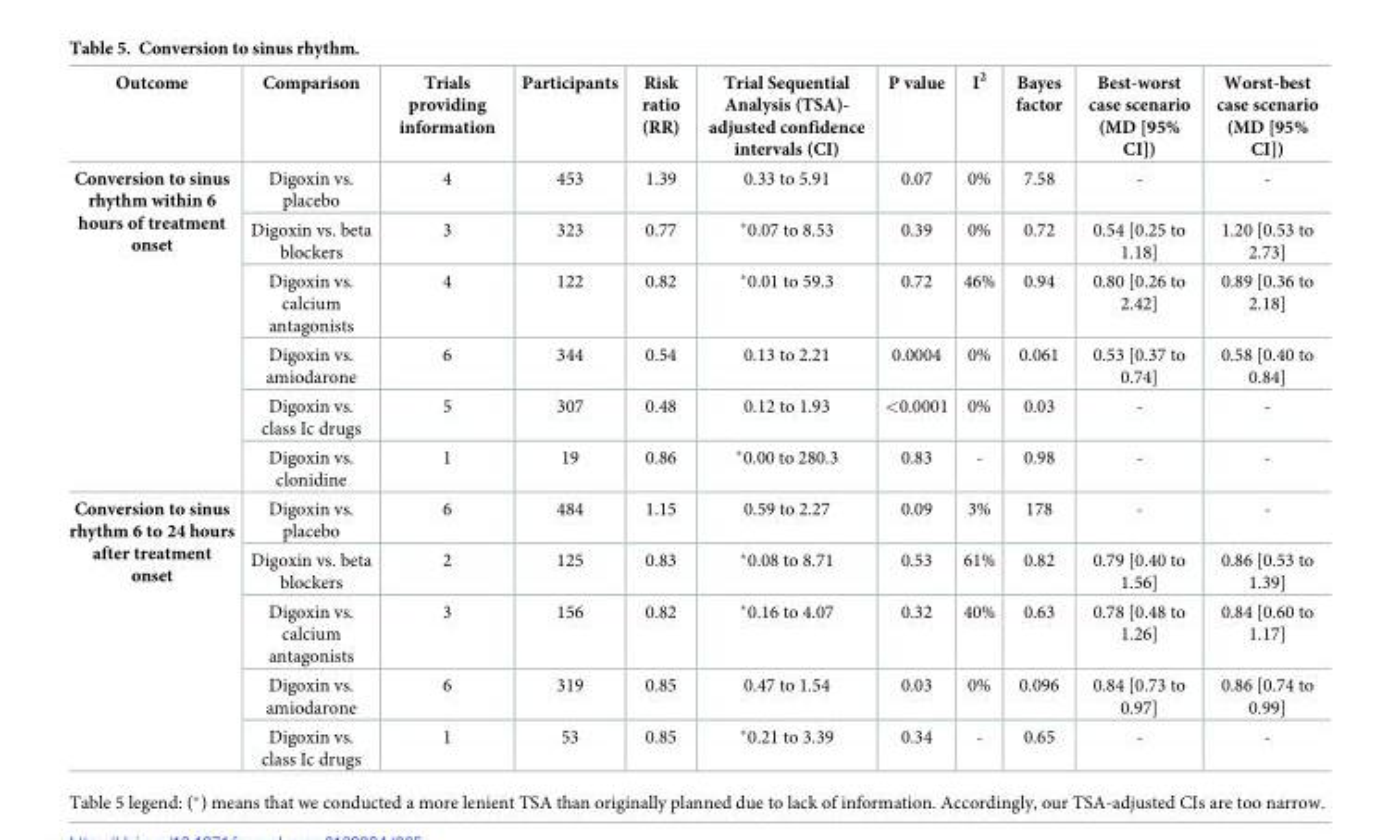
<table><thead><tr><td>Outcome</td><td>Comparison</td><td>Trials providing information</td><td>Participants</td><td>Risk ratio (RR)</td><td>Trial Sequential Analysis (TSA)- adjusted confidence intervals (CI)</td><td>P value</td><td>I<sup>2</sup></td><td>Bayes factor</td><td>Best-worst case scenario (MD [95% CI])</td><td>Worst-best case scenario (MD [95% CI])</td></tr></thead><tbody><tr><td rowspan="6">Conversion to sinus rhythm within 6 hours of treatment onset</td><td>Digoxin vs. placebo</td><td>4</td><td>453</td><td>1.39</td><td>0.33 to 5.91</td><td>0.07</td><td>0%</td><td>7.58</td><td>-</td><td>-</td></tr><tr><td>Digoxin vs. beta blockers</td><td>3</td><td>323</td><td>0.77</td><td>*0.07 to 8.53</td><td>0.39</td><td>0%</td><td>0.72</td><td>0.54 [0.25 to 1.18]</td><td>1.20 [0.53 to 2.73]</td></tr><tr><td>Digoxin vs. calcium antagonists</td><td>4</td><td>122</td><td>0.82</td><td>*0.01 to 59.3</td><td>0.72</td><td>46%</td><td>0.94</td><td>0.80 [0.26 to 2.42]</td><td>0.89 [0.36 to 2.18]</td></tr><tr><td>Digoxin vs. amiodarone</td><td>6</td><td>344</td><td>0.54</td><td>0.13 to 2.21</td><td>0.0004</td><td>0%</td><td>0.061</td><td>0.53 [0.37 to 0.74]</td><td>0.58 [0.40 to 0.84]</td></tr><tr><td>Digoxin vs. class Ic drugs</td><td>5</td><td>307</td><td>0.48</td><td>0.12 to 1.93</td><td>&lt;0.0001</td><td>0%</td><td>0.03</td><td>-</td><td>-</td></tr><tr><td>Digoxin vs. clonidine</td><td>1</td><td>19</td><td>0.86</td><td>*0.00 to 280.3</td><td>0.83</td><td>-</td><td>0.98</td><td>-</td><td>-</td></tr><tr><td rowspan="5">Conversion to sinus rhythm 6 to 24 hours after treatment onset</td><td>Digoxin vs. placebo</td><td>6</td><td>484</td><td>1.15</td><td>0.59 to 2.27</td><td>0.09</td><td>3%</td><td>178</td><td>-</td><td>-</td></tr><tr><td>Digoxin vs. beta blockers</td><td>2</td><td>125</td><td>0.83</td><td>*0.08 to 8.71</td><td>0.53</td><td>61%</td><td>0.82</td><td>0.79 [0.40 to 1.56]</td><td>0.86 [0.53 to 1.39]</td></tr><tr><td>Digoxin vs. calcium antagonists</td><td>3</td><td>156</td><td>0.82</td><td>*0.16 to 4.07</td><td>0.32</td><td>40%</td><td>0.63</td><td>0.78 [0.48 to 1.26]</td><td>0.84 [0.60 to 1.17]</td></tr><tr><td>Digoxin vs. amiodarone</td><td>6</td><td>319</td><td>0.85</td><td>0.47 to 1.54</td><td>0.03</td><td>0%</td><td>0.096</td><td>0.84 [0.73 to 0.97]</td><td>0.86 [0.74 to 0.99]</td></tr><tr><td>Digoxin vs. class Ic drugs</td><td>1</td><td>53</td><td>0.85</td><td>*0.21 to 3.39</td><td>0.34</td><td>-</td><td>0.65</td><td>-</td><td>-</td></tr></tbody></table>